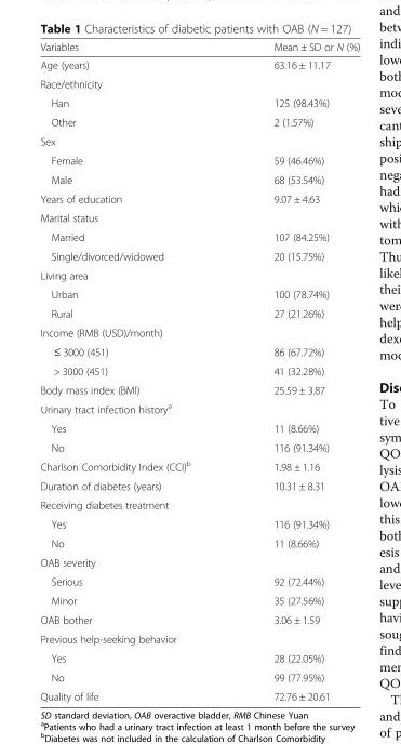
<table><thead><tr><td>Variables</td><td>Mean ± SD or N (%)</td></tr></thead><tbody><tr><td>Age (years)</td><td>63.16 ± 11.17</td></tr><tr><td colspan="2">Race/ethnicity</td></tr><tr><td>Han</td><td>125 (98.43%)</td></tr><tr><td>Other</td><td>2 (1.57%)</td></tr><tr><td colspan="2">Sex</td></tr><tr><td>Female</td><td>59 (46.46%)</td></tr><tr><td>Male</td><td>68 (53.54%)</td></tr><tr><td>Years of education</td><td>9.07 ± 4.63</td></tr><tr><td colspan="2">Marital status</td></tr><tr><td>Married</td><td>107 (84.25%)</td></tr><tr><td>Single/divorced/widowed</td><td>20 (15.75%)</td></tr><tr><td colspan="2">Living area</td></tr><tr><td>Urban</td><td>100 (78.74%)</td></tr><tr><td>Rural</td><td>27 (21.26%)</td></tr><tr><td colspan="2">Income (RMB (USD)/month)</td></tr><tr><td>≤ 3000 (451)</td><td>86 (67.72%)</td></tr><tr><td>&gt; 3000 (451)</td><td>41 (32.28%)</td></tr><tr><td>Body mass index (BMI)</td><td>25.59 ± 3.87</td></tr><tr><td colspan="2">Urinary tract infection history<sup>a</sup></td></tr><tr><td>Yes</td><td>11 (8.66%)</td></tr><tr><td>No</td><td>116 (91.34%)</td></tr><tr><td>Charlson Comorbidity Index (CCI)<sup>b</sup></td><td>1.98 ± 1.16</td></tr><tr><td>Duration of diabetes (years)</td><td>10.31 ± 8.31</td></tr><tr><td colspan="2">Receiving diabetes treatment</td></tr><tr><td>Yes</td><td>116 (91.34%)</td></tr><tr><td>No</td><td>11 (8.66%)</td></tr><tr><td colspan="2">OAB severity</td></tr><tr><td>Serious</td><td>92 (72.44%)</td></tr><tr><td>Minor</td><td>35 (27.56%)</td></tr><tr><td>OAB bother</td><td>3.06 ± 1.59</td></tr><tr><td colspan="2">Previous help-seeking behavior</td></tr><tr><td>Yes</td><td>28 (22.05%)</td></tr><tr><td>No</td><td>99 (77.95%)</td></tr><tr><td>Quality of life</td><td>72.76 ± 20.61</td></tr></tbody></table>